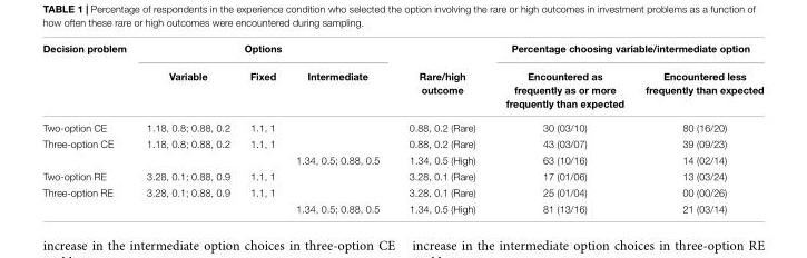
<table><thead><tr><td rowspan="2">Decision problem</td><td colspan="3">Options</td><td rowspan="2">Rare/high outcome</td><td colspan="2">Percentage choosing variable/intermediate option</td></tr><tr><td>Variable</td><td>Fixed</td><td>Intermediate</td><td>Encountered as frequently as or more frequently than expected</td><td>Encountered less frequently than expected</td></tr></thead><tbody><tr><td>Two-option CE</td><td>1.18, 0.8; 0.88, 0.2</td><td>1.1, 1</td><td></td><td>0.88, 0.2 (Rare)</td><td>30 (03/10)</td><td>80 (16/20)</td></tr><tr><td rowspan="2">Three-option CE</td><td>1.18, 0.8; 0.88, 0.2</td><td>1.1, 1</td><td></td><td>0.88, 0.2 (Rare)</td><td>43 (03/07)</td><td>39 (09/23)</td></tr><tr><td></td><td></td><td>1.34, 0.5; 0.88, 0.5</td><td>1.34, 0.5 (High)</td><td>63 (10/16)</td><td>14 (02/14)</td></tr><tr><td>Two-option RE</td><td>3.28, 0.1; 0.88, 0.9</td><td>1.1, 1</td><td></td><td>3.28, 0.1 (Rare)</td><td>17 (01/06)</td><td>13 (03/24)</td></tr><tr><td rowspan="2">Three-option RE</td><td>3.28, 0.1; 0.88, 0.9</td><td>1.1, 1</td><td></td><td>3.28, 0.1 (Rare)</td><td>25 (01/04)</td><td>00 (00/26)</td></tr><tr><td></td><td></td><td>1.34, 0.5; 0.88, 0.5</td><td>1.34, 0.5 (High)</td><td>81 (13/16)</td><td>21 (03/14)</td></tr></tbody></table>